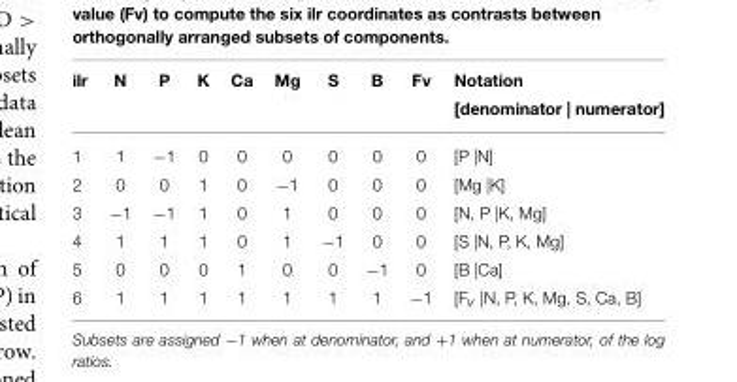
<table><thead><tr><td>ilr</td><td>N</td><td>P</td><td>K</td><td>Ca</td><td>Mg</td><td>S</td><td>B</td><td>Fv</td><td>Notation [denominator | numerator]</td></tr></thead><tbody><tr><td>1</td><td>1</td><td>−1</td><td>0</td><td>0</td><td>0</td><td>0</td><td>0</td><td>0</td><td>[P |N]</td></tr><tr><td>2</td><td>0</td><td>0</td><td>1</td><td>0</td><td>−1</td><td>0</td><td>0</td><td>0</td><td>[Mg |K]</td></tr><tr><td>3</td><td>−1</td><td>−1</td><td>1</td><td>0</td><td>1</td><td>0</td><td>0</td><td>0</td><td>[N, P |K, Mg]</td></tr><tr><td>4</td><td>1</td><td>1</td><td>1</td><td>0</td><td>1</td><td>−1</td><td>0</td><td>0</td><td>[S |N, P, K, Mg]</td></tr><tr><td>5</td><td>0</td><td>0</td><td>0</td><td>1</td><td>0</td><td>0</td><td>−1</td><td>0</td><td>[B |Ca]</td></tr><tr><td>6</td><td>1</td><td>1</td><td>1</td><td>1</td><td>1</td><td>1</td><td>1</td><td>−1</td><td>[F<sub>v</sub> |N, P, K, Mg, S, Ca, B]</td></tr></tbody></table>